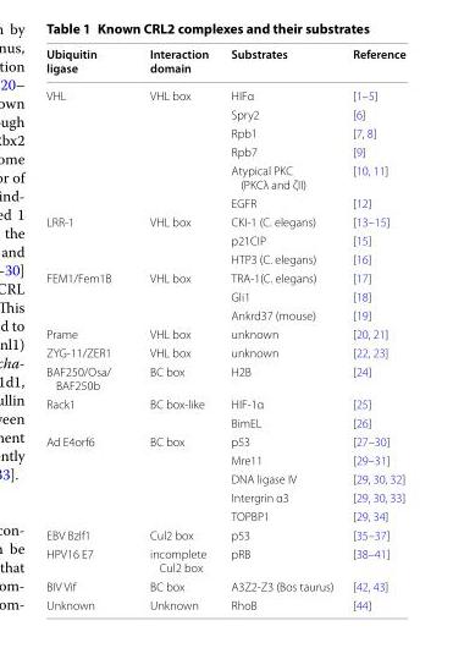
<table><thead><tr><td>Ubiquitin ligase</td><td>Interaction domain</td><td>Substrates</td><td>Reference</td></tr></thead><tbody><tr><td rowspan="6">VHL</td><td rowspan="6">VHL box</td><td>HIFα</td><td>[1–5]</td></tr><tr><td>Spry2</td><td>[6]</td></tr><tr><td>Rpb1</td><td>[7, 8]</td></tr><tr><td>Rpb7</td><td>[9]</td></tr><tr><td>Atypical PKC (PKCλ and ζII)</td><td>[10, 11]</td></tr><tr><td>EGFR</td><td>[12]</td></tr><tr><td rowspan="3">LRR-1</td><td rowspan="3">VHL box</td><td>CKI-1 (C. elegans)</td><td>[13–15]</td></tr><tr><td>p21CIP</td><td>[15]</td></tr><tr><td>HTP3 (C. elegans)</td><td>[16]</td></tr><tr><td rowspan="3">FEM1/Fem1B</td><td rowspan="3">VHL box</td><td>TRA-1(C. elegans)</td><td>[17]</td></tr><tr><td>Gli1</td><td>[18]</td></tr><tr><td>Ankrd37 (mouse)</td><td>[19]</td></tr><tr><td>Prame</td><td>VHL box</td><td>unknown</td><td>[20, 21]</td></tr><tr><td>ZYG-11/ZER1</td><td>VHL box</td><td>unknown</td><td>[22, 23]</td></tr><tr><td>BAF250/Osa/ BAF250b</td><td>BC box</td><td>H2B</td><td>[24]</td></tr><tr><td rowspan="2">Rack1</td><td rowspan="2">BC box-like</td><td>HIF-1α</td><td>[25]</td></tr><tr><td>BimEL</td><td>[26]</td></tr><tr><td rowspan="5">Ad E4orf6</td><td rowspan="5">BC box</td><td>p53</td><td>[27–30]</td></tr><tr><td>Mre11</td><td>[29–31]</td></tr><tr><td>DNA ligase IV</td><td>[29, 30, 32]</td></tr><tr><td>Intergrin α3</td><td>[29, 30, 33]</td></tr><tr><td>TOPBP1</td><td>[29, 34]</td></tr><tr><td>EBV Bzlf1</td><td>Cul2 box</td><td>p53</td><td>[35–37]</td></tr><tr><td>HPV16 E7</td><td>incomplete Cul2 box</td><td>pRB</td><td>[38–41]</td></tr><tr><td>BIV Vif</td><td>BC box</td><td>A3Z2-Z3 (Bos taurus)</td><td>[42, 43]</td></tr><tr><td>Unknown</td><td>Unknown</td><td>RhoB</td><td>[44]</td></tr></tbody></table>